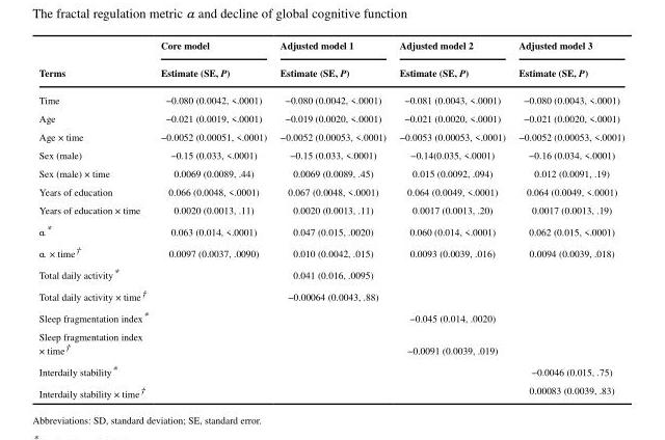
<table><thead><tr><td rowspan="2">Terms</td><td rowspan="2">Core model Estimate (SE, P)</td><td rowspan="2">Adjusted model 1 Estimate (SE, P)</td><td rowspan="2">Adjusted model 2 Estimate (SE, P)</td><td rowspan="2">Adjusted model 3 Estimate (SE, P)</td></tr><tr></tr></thead><tbody><tr><td>Time</td><td>−0.080 (0.0042, &lt;.0001)</td><td>−0.080 (0.0042, &lt;.0001)</td><td>−0.081 (0.0043, &lt;.0001)</td><td>−0.080 (0.0043, &lt;.0001)</td></tr><tr><td>Age</td><td>−0.021 (0.0019, &lt;.0001)</td><td>−0.019 (0.0020, &lt;.0001)</td><td>−0.021 (0.0020, &lt;.0001)</td><td>−0.021 (0.0020, &lt;.0001)</td></tr><tr><td>Age × time</td><td>−0.0052 (0.00051, &lt;.0001)</td><td>−0.0052 (0.00053, &lt;.0001)</td><td>−0.0053 (0.00053, &lt;.0001)</td><td>−0.0052 (0.00053, &lt;.0001)</td></tr><tr><td>Sex (male)</td><td>−0.15 (0.033, &lt;.0001)</td><td>−0.15 (0.033, &lt;.0001)</td><td>−0.14(0.035, &lt;.0001)</td><td>−0.16 (0.034, &lt;.0001)</td></tr><tr><td>Sex (male) × time</td><td>0.0069 (0.0089, .44)</td><td>0.0069 (0.0089, .45)</td><td>0.015 (0.0092, .094)</td><td>0.012 (0.0091, .19)</td></tr><tr><td>Years of education</td><td>0.066 (0.0048, &lt;.0001)</td><td>0.067 (0.0048, &lt;.0001)</td><td>0.064 (0.0049, &lt;.0001)</td><td>0.064 (0.0049, &lt;.0001)</td></tr><tr><td>Years of education × time</td><td>0.0020 (0.0013, .11)</td><td>0.0020 (0.0013, .11)</td><td>0.0017 (0.0013, .20)</td><td>0.0017 (0.0013, .19)</td></tr><tr><td>α*</td><td>0.063 (0.014, &lt;.0001)</td><td>0.047 (0.015, .0020)</td><td>0.060 (0.014, &lt;.0001)</td><td>0.062 (0.015, &lt;.0001)</td></tr><tr><td>α × time†</td><td>0.0097 (0.0037, .0090)</td><td>0.010 (0.0042, .015)</td><td>0.0093 (0.0039, .016)</td><td>0.0094 (0.0039, .018)</td></tr><tr><td>Total daily activity*</td><td></td><td>0.041 (0.016, .0095)</td><td></td><td></td></tr><tr><td>Total daily activity × time†</td><td></td><td>−0.00064 (0.0043, .88)</td><td></td><td></td></tr><tr><td>Sleep fragmentation index*</td><td></td><td></td><td>−0.045 (0.014, .0020)</td><td></td></tr><tr><td>Sleep fragmentation index × time†</td><td></td><td></td><td>−0.0091 (0.0039, .019)</td><td></td></tr><tr><td>Interdaily stability*</td><td></td><td></td><td></td><td>−0.0046 (0.015, .75)</td></tr><tr><td>Interdaily stability × time†</td><td></td><td></td><td></td><td>0.00083 (0.0039, .83)</td></tr></tbody></table>